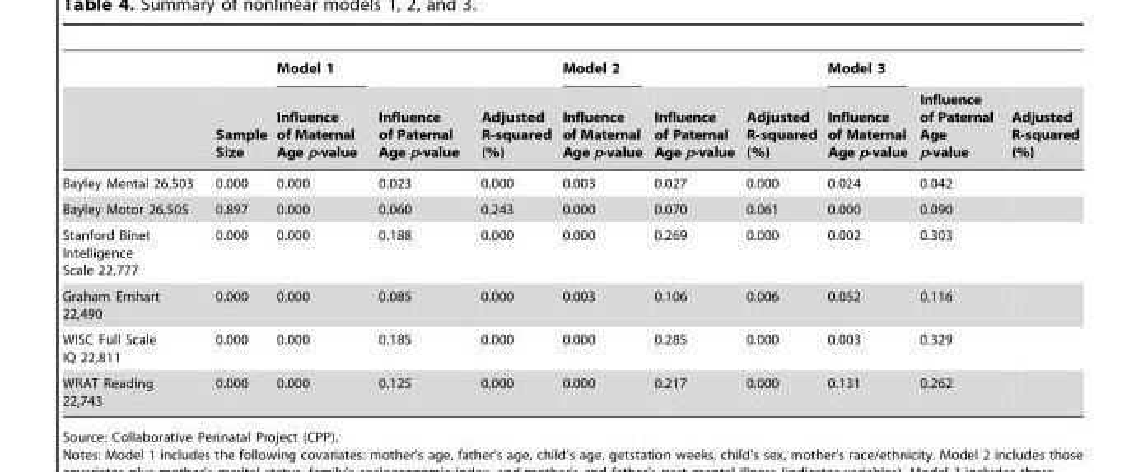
<table><thead><tr><td rowspan="2"></td><td rowspan="2">Sample Size</td><td rowspan="2">Model 1 Influence of Maternal Age p-value</td><td rowspan="2">Influence of Paternal Age p-value</td><td rowspan="2">Adjusted R-squared (%)</td><td rowspan="2">Model 2 Influence of Maternal Age p-value</td><td rowspan="2">Influence of Paternal Age p-value</td><td rowspan="2">Adjusted R-squared (%)</td><td rowspan="2">Model 3 Influence of Maternal Age p-value</td><td rowspan="2">Influence of Paternal Age p-value</td><td rowspan="2">Adjusted R-squared (%)</td></tr><tr></tr></thead><tbody><tr><td>Bayley Mental 26,503</td><td>0.000</td><td>0.000</td><td>0.023</td><td>0.000</td><td>0.003</td><td>0.027</td><td>0.000</td><td>0.024</td><td>0.042</td><td></td></tr><tr><td>Bayley Motor 26,505</td><td>0.897</td><td>0.000</td><td>0.060</td><td>0.243</td><td>0.000</td><td>0.070</td><td>0.061</td><td>0.000</td><td>0.090</td><td></td></tr><tr><td>Stanford Binet Intelligence Scale 22,777</td><td>0.000</td><td>0.000</td><td>0.188</td><td>0.000</td><td>0.000</td><td>0.269</td><td>0.000</td><td>0.002</td><td>0.303</td><td></td></tr><tr><td>Graham Ernhart 22,490</td><td>0.000</td><td>0.000</td><td>0.085</td><td>0.000</td><td>0.003</td><td>0.106</td><td>0.006</td><td>0.052</td><td>0.116</td><td></td></tr><tr><td>WISC Full Scale IQ 22,811</td><td>0.000</td><td>0.000</td><td>0.185</td><td>0.000</td><td>0.000</td><td>0.285</td><td>0.000</td><td>0.003</td><td>0.329</td><td></td></tr><tr><td>WRAT Reading 22,743</td><td>0.000</td><td>0.000</td><td>0.125</td><td>0.000</td><td>0.000</td><td>0.217</td><td>0.000</td><td>0.131</td><td>0.262</td><td></td></tr></tbody></table>